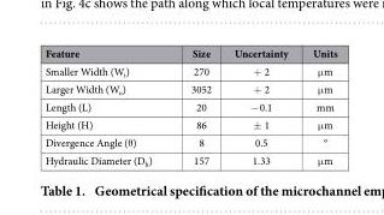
<table><thead><tr><td>Feature</td><td>Size</td><td>Uncertainty</td><td>Units</td></tr></thead><tbody><tr><td>Smaller Width (W<sub>i</sub>)</td><td>270</td><td>+ 2</td><td>μ m</td></tr><tr><td>Larger Width (W<sub>o</sub>)</td><td>3052</td><td>+ 2</td><td>μ m</td></tr><tr><td>Length (L)</td><td>20</td><td>− 0.1</td><td>mm</td></tr><tr><td>Height (H)</td><td>86</td><td>± 1</td><td>μ m</td></tr><tr><td>Divergence Angle (θ )</td><td>8</td><td>0.5</td><td>°</td></tr><tr><td>Hydraulic Diameter (D<sub>h</sub>)</td><td>157</td><td>1.33</td><td>μ m</td></tr></tbody></table>